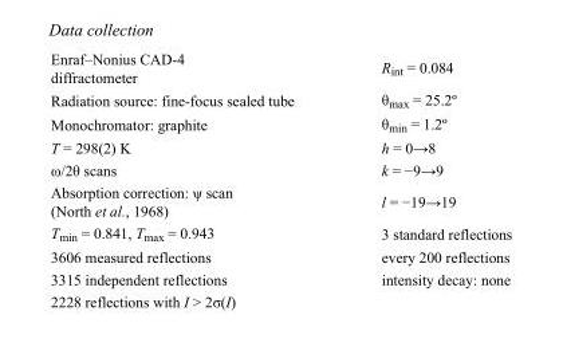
<table><tbody><tr><td>Enraf–Nonius CAD-4 diffractometer</td><td>R<sub>int</sub> = 0.084</td></tr><tr><td>Radiation source: fine-focus sealed tube</td><td>θ<sub>max</sub> = 25.2º</td></tr><tr><td>Monochromator: graphite</td><td>θ<sub>min</sub> = 1.2º</td></tr><tr><td>T = 298(2) K</td><td>h = 0→8</td></tr><tr><td>ω/2θ scans</td><td>k = −9→9</td></tr><tr><td>Absorption correction: ψ scan (North et al., 1968)</td><td>l = −19→19</td></tr><tr><td>T<sub>min</sub> = 0.841, T<sub>max</sub> = 0.943</td><td>3 standard reflections</td></tr><tr><td>3606 measured reflections</td><td>every 200 reflections</td></tr><tr><td>3315 independent reflections</td><td>intensity decay: none</td></tr><tr><td>2228 reflections with I &gt; 2σ(I)</td><td></td></tr></tbody></table>